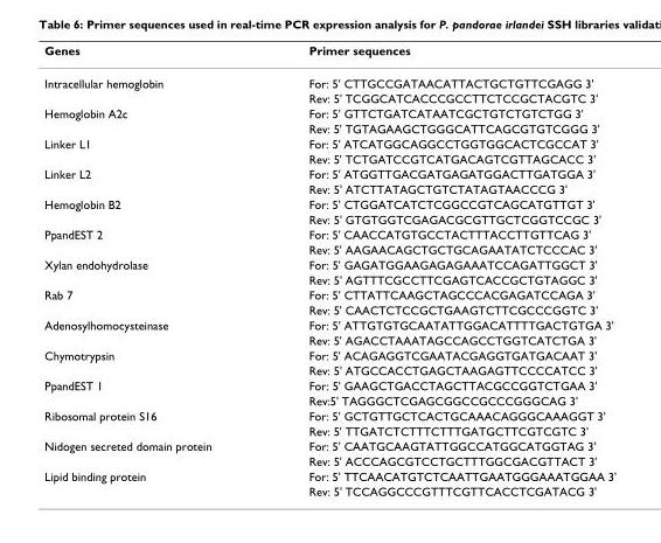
<table><thead><tr><td>Genes</td><td>Primer sequences</td></tr></thead><tbody><tr><td rowspan="2">Intracellular hemoglobin</td><td>For: 5&#x27; CTTGCCGATAACATTACTGCTGTTCGAGG 3&#x27;</td></tr><tr><td>Rev: 5&#x27; TCGGCATCACCCGCCTTCTCCGCTACGTC 3&#x27;</td></tr><tr><td rowspan="2">Hemoglobin A2c</td><td>For: 5&#x27; GTTCTGATCATAATCGCTGTCTGTCTGG 3&#x27;</td></tr><tr><td>Rev: 5&#x27; TGTAGAAGCTGGGCATTCAGCGTGTCGGG 3&#x27;</td></tr><tr><td rowspan="2">Linker L1</td><td>For: 5&#x27; ATCATGGCAGGCCTGGTGGCACTCGCCAT 3&#x27;</td></tr><tr><td>Rev: 5&#x27; TCTGATCCGTCATGACAGTCGTTAGCACC 3&#x27;</td></tr><tr><td rowspan="2">Linker L2</td><td>For: 5&#x27; ATGGTTGACGATGAGATGGACTTGATGGA 3&#x27;</td></tr><tr><td>Rev: 5&#x27; ATCTTATAGCTGTCTATAGTAACCCG 3&#x27;</td></tr><tr><td rowspan="2">Hemoglobin B2</td><td>For: 5&#x27; CTGGATCATCTCGGCCGTCAGCATGTTGT 3&#x27;</td></tr><tr><td>Rev: 5&#x27; GTGTGGTCGAGACGCGTTGCTCGGTCCGC 3&#x27;</td></tr><tr><td rowspan="2">PpandEST 2</td><td>For: 5&#x27; CAACCATGTGCCTACTTTACCTTGTTCAG 3&#x27;</td></tr><tr><td>Rev: 5&#x27; AAGAACAGCTGCTGCAGAATATCTCCCAC 3&#x27;</td></tr><tr><td rowspan="2">Xylan endohydrolase</td><td>For: 5&#x27; GAGATGGAAGAGAGAAATCCAGATTGGCT 3&#x27;</td></tr><tr><td>Rev: 5&#x27; AGTTTCGCCTTCGAGTCACCGCTGTAGGC 3&#x27;</td></tr><tr><td rowspan="2">Rab 7</td><td>For: 5&#x27; CTTATTCAAGCTAGCCCACGAGATCCAGA 3&#x27;</td></tr><tr><td>Rev: 5&#x27; CAACTCTCCGCTGAAGTCTTCGCCCGGTC 3&#x27;</td></tr><tr><td rowspan="2">Adenosylhomocysteinase</td><td>For: 5&#x27; ATTGTGTGCAATATTGGACATTTTGACTGTGA 3&#x27;</td></tr><tr><td>Rev: 5&#x27; AGACCTAAATAGCCAGCCTGGTCATCTGA 3&#x27;</td></tr><tr><td rowspan="2">Chymotrypsin</td><td>For: 5&#x27; ACAGAGGTCGAATACGAGGTGATGACAAT 3&#x27;</td></tr><tr><td>Rev: 5&#x27; ATGCCACCTGAGCTAAGAGTTCCCCATCC 3&#x27;</td></tr><tr><td rowspan="2">PpandEST 1</td><td>For: 5&#x27; GAAGCTGACCTAGCTTACGCCGGTCTGAA 3&#x27;</td></tr><tr><td>Rev:5&#x27; TAGGGCTCGAGCGGCCGCCCGGGCAG 3&#x27;</td></tr><tr><td rowspan="2">Ribosomal protein S16</td><td>For: 5&#x27; GCTGTTGCTCACTGCAAACAGGGCAAAGGT 3&#x27;</td></tr><tr><td>Rev: 5&#x27; TTGATCTCTTTCTTTGATGCTTCGTCGTC 3&#x27;</td></tr><tr><td rowspan="2">Nidogen secreted domain protein</td><td>For: 5&#x27; CAATGCAAGTATTGGCCATGGCATGGTAG 3&#x27;</td></tr><tr><td>Rev: 5&#x27; ACCCAGCGTCCTGCTTTGGCGACGTTACT 3&#x27;</td></tr><tr><td rowspan="2">Lipid binding protein</td><td>For: 5&#x27; TTCAACATGTCTCAATTGAATGGGAAATGGAA 3&#x27;</td></tr><tr><td>Rev: 5&#x27; TCCAGGCCCGTTTCGTTCACCTCGATACG 3&#x27;</td></tr></tbody></table>